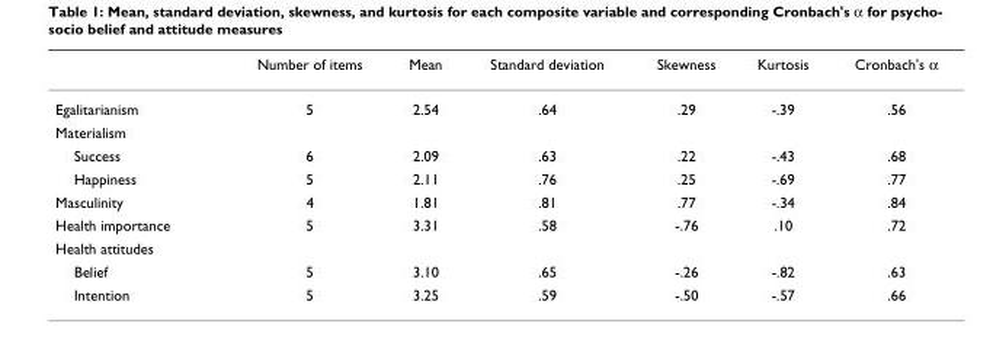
<table><thead><tr><td></td><td>Number of items</td><td>Mean</td><td>Standard deviation</td><td>Skewness</td><td>Kurtosis</td><td>Cronbach&#x27;s α</td></tr></thead><tbody><tr><td>Egalitarianism</td><td>5</td><td>2.54</td><td>.64</td><td>.29</td><td>-.39</td><td>.56</td></tr><tr><td colspan="7">Materialism</td></tr><tr><td>Success</td><td>6</td><td>2.09</td><td>.63</td><td>.22</td><td>-.43</td><td>.68</td></tr><tr><td>Happiness</td><td>5</td><td>2.11</td><td>.76</td><td>.25</td><td>-.69</td><td>.77</td></tr><tr><td>Masculinity</td><td>4</td><td>1.81</td><td>.81</td><td>.77</td><td>-.34</td><td>.84</td></tr><tr><td>Health importance</td><td>5</td><td>3.31</td><td>.58</td><td>-.76</td><td>.10</td><td>.72</td></tr><tr><td colspan="7">Health attitudes</td></tr><tr><td>Belief</td><td>5</td><td>3.10</td><td>.65</td><td>-.26</td><td>-.82</td><td>.63</td></tr><tr><td>Intention</td><td>5</td><td>3.25</td><td>.59</td><td>-.50</td><td>-.57</td><td>.66</td></tr></tbody></table>